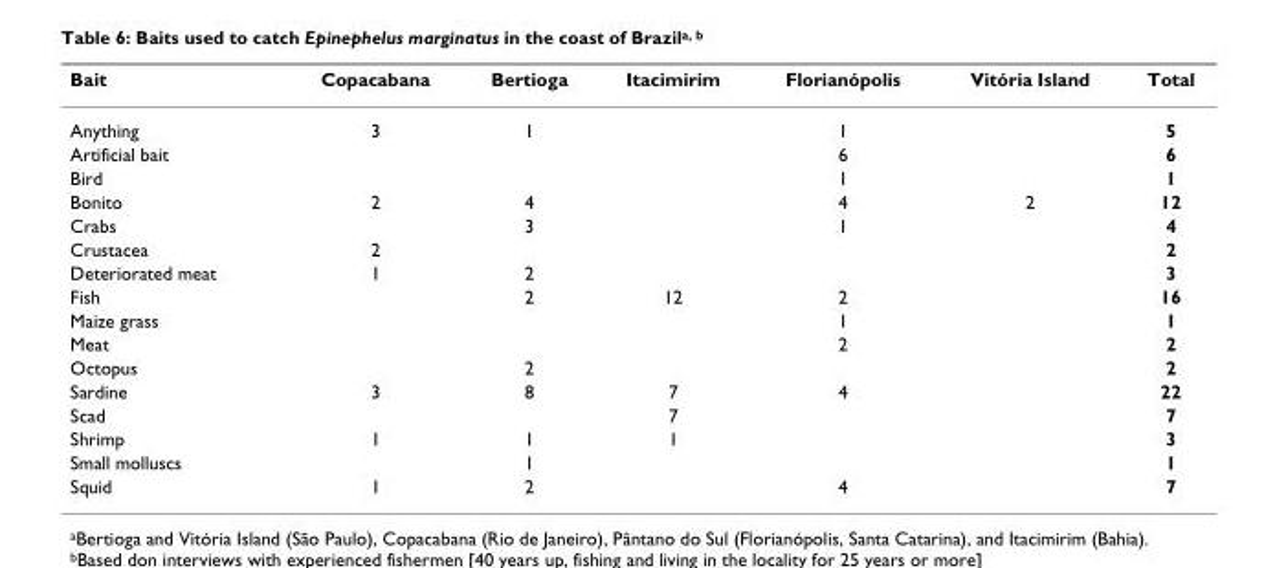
<table><thead><tr><td>Bait</td><td>Copacabana</td><td>Bertioga</td><td>Itacimirim</td><td>Florianópolis</td><td>Vitória Island</td><td>Total</td></tr></thead><tbody><tr><td>Anything</td><td>3</td><td>1</td><td></td><td>1</td><td></td><td>5</td></tr><tr><td>Artificial bait</td><td></td><td></td><td></td><td>6</td><td></td><td>6</td></tr><tr><td>Bird</td><td></td><td></td><td></td><td>1</td><td></td><td>1</td></tr><tr><td>Bonito</td><td>2</td><td>4</td><td></td><td>4</td><td>2</td><td>12</td></tr><tr><td>Crabs</td><td></td><td>3</td><td></td><td>1</td><td></td><td>4</td></tr><tr><td>Crustacea</td><td>2</td><td></td><td></td><td></td><td></td><td>2</td></tr><tr><td>Deteriorated meat</td><td>1</td><td>2</td><td></td><td></td><td></td><td>3</td></tr><tr><td>Fish</td><td></td><td>2</td><td>12</td><td>2</td><td></td><td>16</td></tr><tr><td>Maize grass</td><td></td><td></td><td></td><td>1</td><td></td><td>1</td></tr><tr><td>Meat</td><td></td><td></td><td></td><td>2</td><td></td><td>2</td></tr><tr><td>Octopus</td><td></td><td>2</td><td></td><td></td><td></td><td>2</td></tr><tr><td>Sardine</td><td>3</td><td>8</td><td>7</td><td>4</td><td></td><td>22</td></tr><tr><td>Scad</td><td></td><td></td><td>7</td><td></td><td></td><td>7</td></tr><tr><td>Shrimp</td><td>1</td><td>1</td><td>1</td><td></td><td></td><td>3</td></tr><tr><td>Small molluscs</td><td></td><td>1</td><td></td><td></td><td></td><td>1</td></tr><tr><td>Squid</td><td>1</td><td>2</td><td></td><td>4</td><td></td><td>7</td></tr></tbody></table>